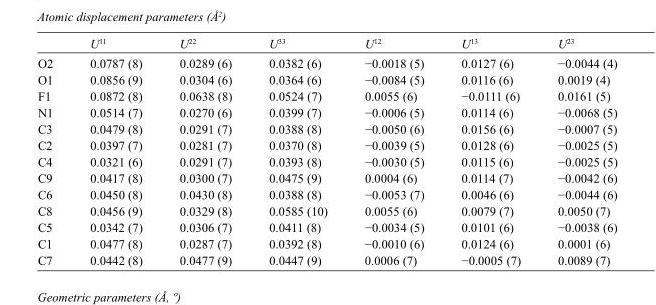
<table><thead><tr><td></td><td>U<sup>11</sup></td><td>U<sup>22</sup></td><td>U<sup>33</sup></td><td>U<sup>12</sup></td><td>U<sup>13</sup></td><td>U<sup>23</sup></td></tr></thead><tbody><tr><td>O2</td><td>0.0787 (8)</td><td>0.0289 (6)</td><td>0.0382 (6)</td><td>−0.0018 (5)</td><td>0.0127 (6)</td><td>−0.0044 (4)</td></tr><tr><td>O1</td><td>0.0856 (9)</td><td>0.0304 (6)</td><td>0.0364 (6)</td><td>−0.0084 (5)</td><td>0.0116 (6)</td><td>0.0019 (4)</td></tr><tr><td>F1</td><td>0.0872 (8)</td><td>0.0638 (8)</td><td>0.0524 (7)</td><td>0.0055 (6)</td><td>−0.0111 (6)</td><td>0.0161 (5)</td></tr><tr><td>N1</td><td>0.0514 (7)</td><td>0.0270 (6)</td><td>0.0399 (7)</td><td>−0.0006 (5)</td><td>0.0114 (6)</td><td>−0.0068 (5)</td></tr><tr><td>C3</td><td>0.0479 (8)</td><td>0.0291 (7)</td><td>0.0388 (8)</td><td>−0.0050 (6)</td><td>0.0156 (6)</td><td>−0.0007 (5)</td></tr><tr><td>C2</td><td>0.0397 (7)</td><td>0.0281 (7)</td><td>0.0370 (8)</td><td>−0.0039 (5)</td><td>0.0128 (6)</td><td>−0.0025 (5)</td></tr><tr><td>C4</td><td>0.0321 (6)</td><td>0.0291 (7)</td><td>0.0393 (8)</td><td>−0.0030 (5)</td><td>0.0115 (6)</td><td>−0.0025 (5)</td></tr><tr><td>C9</td><td>0.0417 (8)</td><td>0.0300 (7)</td><td>0.0475 (9)</td><td>0.0004 (6)</td><td>0.0114 (7)</td><td>−0.0042 (6)</td></tr><tr><td>C6</td><td>0.0450 (8)</td><td>0.0430 (8)</td><td>0.0388 (8)</td><td>−0.0053 (7)</td><td>0.0046 (6)</td><td>−0.0044 (6)</td></tr><tr><td>C8</td><td>0.0456 (9)</td><td>0.0329 (8)</td><td>0.0585 (10)</td><td>0.0055 (6)</td><td>0.0079 (7)</td><td>0.0050 (7)</td></tr><tr><td>C5</td><td>0.0342 (7)</td><td>0.0306 (7)</td><td>0.0411 (8)</td><td>−0.0034 (5)</td><td>0.0101 (6)</td><td>−0.0038 (6)</td></tr><tr><td>C1</td><td>0.0477 (8)</td><td>0.0287 (7)</td><td>0.0392 (8)</td><td>−0.0010 (6)</td><td>0.0124 (6)</td><td>0.0001 (6)</td></tr><tr><td>C7</td><td>0.0442 (8)</td><td>0.0477 (9)</td><td>0.0447 (9)</td><td>0.0006 (7)</td><td>−0.0005 (7)</td><td>0.0089 (7)</td></tr></tbody></table>